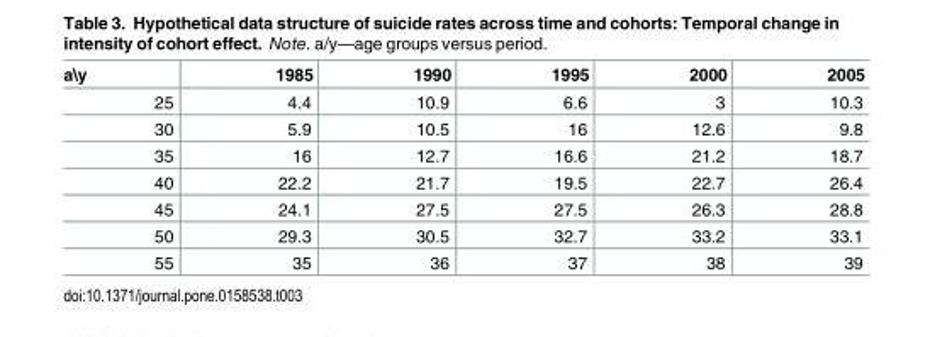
<table><thead><tr><td>a\y</td><td>1985</td><td>1990</td><td>1995</td><td>2000</td><td>2005</td></tr></thead><tbody><tr><td>25</td><td>4.4</td><td>10.9</td><td>6.6</td><td>3</td><td>10.3</td></tr><tr><td>30</td><td>5.9</td><td>10.5</td><td>16</td><td>12.6</td><td>9.8</td></tr><tr><td>35</td><td>16</td><td>12.7</td><td>16.6</td><td>21.2</td><td>18.7</td></tr><tr><td>40</td><td>22.2</td><td>21.7</td><td>19.5</td><td>22.7</td><td>26.4</td></tr><tr><td>45</td><td>24.1</td><td>27.5</td><td>27.5</td><td>26.3</td><td>28.8</td></tr><tr><td>50</td><td>29.3</td><td>30.5</td><td>32.7</td><td>33.2</td><td>33.1</td></tr><tr><td>55</td><td>35</td><td>36</td><td>37</td><td>38</td><td>39</td></tr></tbody></table>